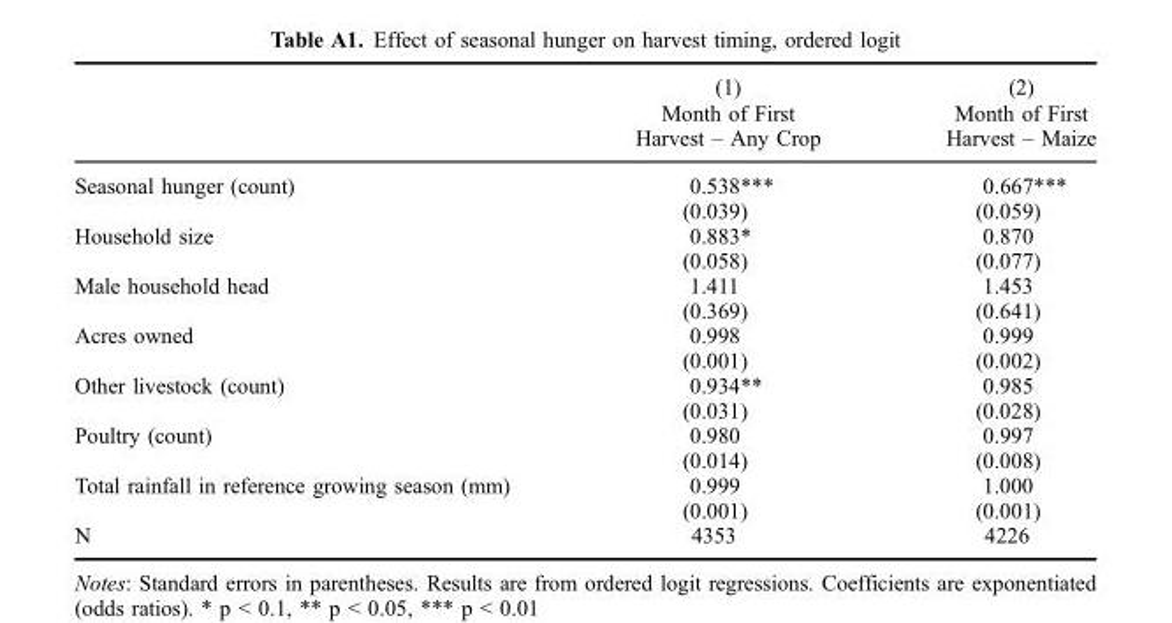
<table><thead><tr><td rowspan="2"></td><td rowspan="2">(1) Month of First Harvest – Any Crop</td><td rowspan="2">(2) Month of First Harvest – Maize</td></tr><tr></tr></thead><tbody><tr><td rowspan="2">Seasonal hunger (count)</td><td>0.538***</td><td>0.667***</td></tr><tr><td>(0.039)</td><td>(0.059)</td></tr><tr><td rowspan="2">Household size</td><td>0.883*</td><td>0.870</td></tr><tr><td>(0.058)</td><td>(0.077)</td></tr><tr><td rowspan="2">Male household head</td><td>1.411</td><td>1.453</td></tr><tr><td>(0.369)</td><td>(0.641)</td></tr><tr><td rowspan="2">Acres owned</td><td>0.998</td><td>0.999</td></tr><tr><td>(0.001)</td><td>(0.002)</td></tr><tr><td rowspan="2">Other livestock (count)</td><td>0.934**</td><td>0.985</td></tr><tr><td>(0.031)</td><td>(0.028)</td></tr><tr><td rowspan="2">Poultry (count)</td><td>0.980</td><td>0.997</td></tr><tr><td>(0.014)</td><td>(0.008)</td></tr><tr><td rowspan="2">Total rainfall in reference growing season (mm)</td><td>0.999</td><td>1.000</td></tr><tr><td>(0.001)</td><td>(0.001)</td></tr><tr><td>N</td><td>4353</td><td>4226</td></tr></tbody></table>